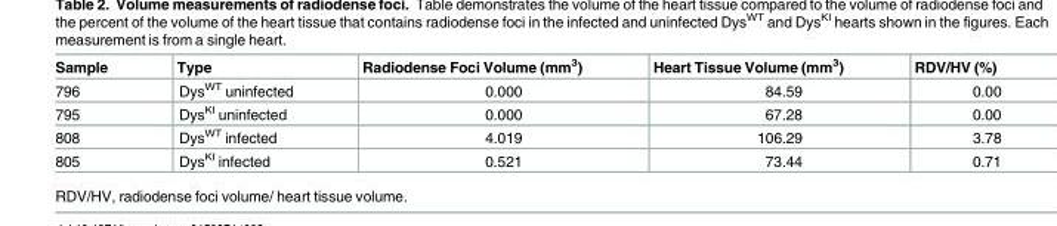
<table><thead><tr><td>Sample</td><td>Type</td><td>Radiodense Foci Volume (mm<sup>3</sup>)</td><td>Heart Tissue Volume (mm<sup>3</sup>)</td><td>RDV/HV (%)</td></tr></thead><tbody><tr><td>796</td><td>Dys<sup>WT</sup> uninfected</td><td>0.000</td><td>84.59</td><td>0.00</td></tr><tr><td>795</td><td>Dys<sup>KI</sup> uninfected</td><td>0.000</td><td>67.28</td><td>0.00</td></tr><tr><td>808</td><td>Dys<sup>WT</sup> infected</td><td>4.019</td><td>106.29</td><td>3.78</td></tr><tr><td>805</td><td>Dys<sup>KI</sup> infected</td><td>0.521</td><td>73.44</td><td>0.71</td></tr></tbody></table>